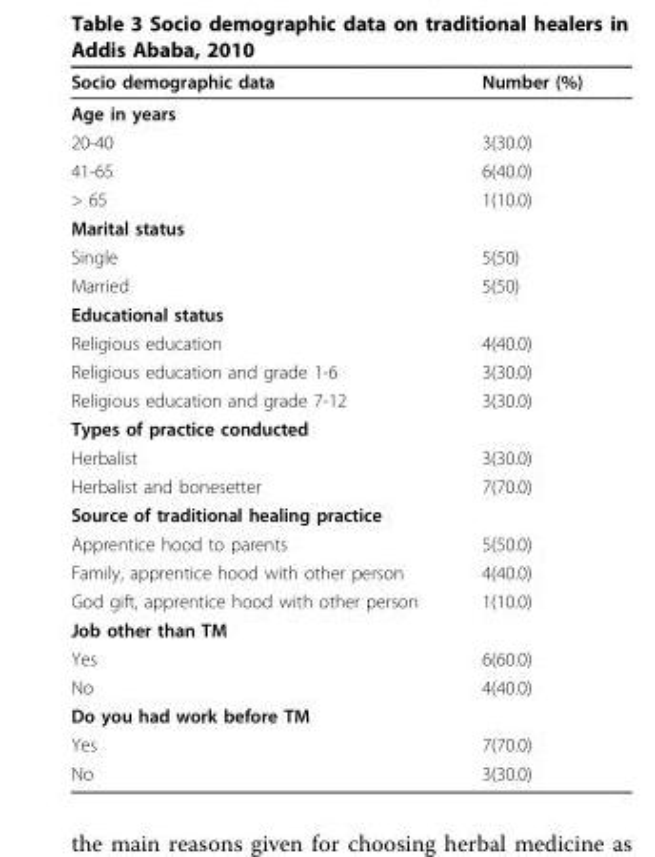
<table><thead><tr><td>Socio demographic data</td><td>Number (%)</td></tr></thead><tbody><tr><td colspan="2">Age in years</td></tr><tr><td>20-40</td><td>3(30.0)</td></tr><tr><td>41-65</td><td>6(40.0)</td></tr><tr><td>&gt; 65</td><td>1(10.0)</td></tr><tr><td colspan="2">Marital status</td></tr><tr><td>Single</td><td>5(50)</td></tr><tr><td>Married</td><td>5(50)</td></tr><tr><td colspan="2">Educational status</td></tr><tr><td>Religious education</td><td>4(40.0)</td></tr><tr><td>Religious education and grade 1-6</td><td>3(30.0)</td></tr><tr><td>Religious education and grade 7-12</td><td>3(30.0)</td></tr><tr><td colspan="2">Types of practice conducted</td></tr><tr><td>Herbalist</td><td>3(30.0)</td></tr><tr><td>Herbalist and bonesetter</td><td>7(70.0)</td></tr><tr><td colspan="2">Source of traditional healing practice</td></tr><tr><td>Apprentice hood to parents</td><td>5(50.0)</td></tr><tr><td>Family, apprentice hood with other person</td><td>4(40.0)</td></tr><tr><td>God gift, apprentice hood with other person</td><td>1(10.0)</td></tr><tr><td colspan="2">Job other than TM</td></tr><tr><td>Yes</td><td>6(60.0)</td></tr><tr><td>No</td><td>4(40.0)</td></tr><tr><td colspan="2">Do you had work before TM</td></tr><tr><td>Yes</td><td>7(70.0)</td></tr><tr><td>No</td><td>3(30.0)</td></tr></tbody></table>